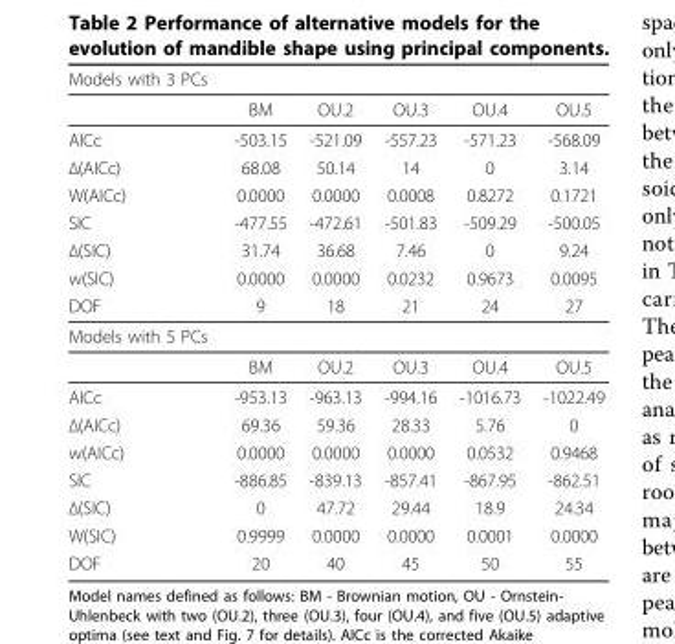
<table><thead><tr><td>Models with 3 PCs</td><td></td><td></td><td></td><td></td><td></td></tr></thead><tbody><tr><td></td><td>BM</td><td>OU.2</td><td>OU.3</td><td>OU.4</td><td>OU.5</td></tr><tr><td>AICc</td><td>-503.15</td><td>-521.09</td><td>-557.23</td><td>-571.23</td><td>-568.09</td></tr><tr><td>Δ(AICc)</td><td>68.08</td><td>50.14</td><td>14</td><td>0</td><td>3.14</td></tr><tr><td>W(AICc)</td><td>0.0000</td><td>0.0000</td><td>0.0008</td><td>0.8272</td><td>0.1721</td></tr><tr><td>SIC</td><td>-477.55</td><td>-472.61</td><td>-501.83</td><td>-509.29</td><td>-500.05</td></tr><tr><td>Δ(SIC)</td><td>31.74</td><td>36.68</td><td>7.46</td><td>0</td><td>9.24</td></tr><tr><td>w(SIC)</td><td>0.0000</td><td>0.0000</td><td>0.0232</td><td>0.9673</td><td>0.0095</td></tr><tr><td>DOF</td><td>9</td><td>18</td><td>21</td><td>24</td><td>27</td></tr><tr><td colspan="6">Models with 5 PCs</td></tr><tr><td></td><td>BM</td><td>OU.2</td><td>OU.3</td><td>OU.4</td><td>OU.5</td></tr><tr><td>AICc</td><td>-953.13</td><td>-963.13</td><td>-994.16</td><td>-1016.73</td><td>-1022.49</td></tr><tr><td>Δ(AICc)</td><td>69.36</td><td>59.36</td><td>28.33</td><td>5.76</td><td>0</td></tr><tr><td>w(AICc)</td><td>0.0000</td><td>0.0000</td><td>0.0000</td><td>0.0532</td><td>0.9468</td></tr><tr><td>SIC</td><td>-886.85</td><td>-839.13</td><td>-857.41</td><td>-867.95</td><td>-862.51</td></tr><tr><td>Δ(SIC)</td><td>0</td><td>47.72</td><td>29.44</td><td>18.9</td><td>24.34</td></tr><tr><td>W(SIC)</td><td>0.9999</td><td>0.0000</td><td>0.0000</td><td>0.0001</td><td>0.0000</td></tr><tr><td>DOF</td><td>20</td><td>40</td><td>45</td><td>50</td><td>55</td></tr></tbody></table>